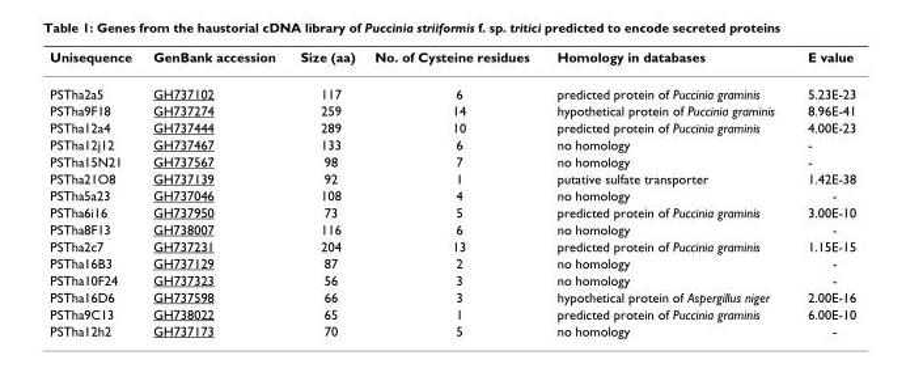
<table><thead><tr><td>Unisequence</td><td>GenBank accession</td><td>Size (aa)</td><td>No. of Cysteine residues</td><td>Homology in databases</td><td>E value</td></tr></thead><tbody><tr><td>PSTha2a5</td><td>GH737102</td><td>117</td><td>6</td><td>predicted protein of Puccinia graminis</td><td>5.23E-23</td></tr><tr><td>PSTha9F18</td><td>GH737274</td><td>259</td><td>14</td><td>hypothetical protein of Puccinia graminis</td><td>8.96E-41</td></tr><tr><td>PSTha12a4</td><td>GH737444</td><td>289</td><td>10</td><td>predicted protein of Puccinia graminis</td><td>4.00E-23</td></tr><tr><td>PSTha12j12</td><td>GH737467</td><td>133</td><td>6</td><td>no homology</td><td>-</td></tr><tr><td>PSTha15N21</td><td>GH737567</td><td>98</td><td>7</td><td>no homology</td><td>-</td></tr><tr><td>PSTha21O8</td><td>GH737139</td><td>92</td><td>1</td><td>putative sulfate transporter</td><td>1.42E-38</td></tr><tr><td>PSTha5a23</td><td>GH737046</td><td>108</td><td>4</td><td>no homology</td><td>-</td></tr><tr><td>PSTha6i16</td><td>GH737950</td><td>73</td><td>5</td><td>predicted protein of Puccinia graminis</td><td>3.00E-10</td></tr><tr><td>PSTha8F13</td><td>GH738007</td><td>116</td><td>6</td><td>no homology</td><td>-</td></tr><tr><td>PSTha2c7</td><td>GH737231</td><td>204</td><td>13</td><td>predicted protein of Puccinia graminis</td><td>1.15E-15</td></tr><tr><td>PSTha16B3</td><td>GH737129</td><td>87</td><td>2</td><td>no homology</td><td>-</td></tr><tr><td>PSTha10F24</td><td>GH737323</td><td>56</td><td>3</td><td>no homology</td><td>-</td></tr><tr><td>PSTha16D6</td><td>GH737598</td><td>66</td><td>3</td><td>hypothetical protein of Aspergillus niger</td><td>2.00E-16</td></tr><tr><td>PSTha9C13</td><td>GH738022</td><td>65</td><td>1</td><td>predicted protein of Puccinia graminis</td><td>6.00E-10</td></tr><tr><td>PSTha12h2</td><td>GH737173</td><td>70</td><td>5</td><td>no homology</td><td>-</td></tr></tbody></table>